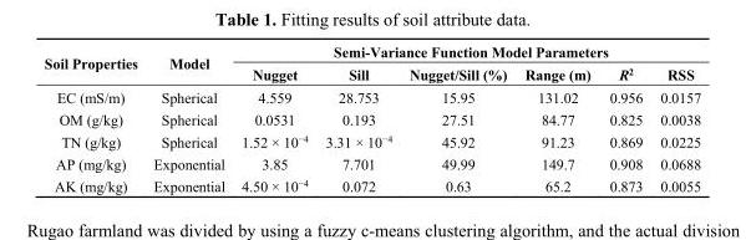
<table><thead><tr><td rowspan="2">Soil Properties</td><td rowspan="2">Model</td><td colspan="6">Semi-Variance Function Model Parameters</td></tr><tr><td>Nugget</td><td>Sill</td><td>Nugget/Sill (%)</td><td>Range (m)</td><td>R<sup>2</sup></td><td>RSS</td></tr></thead><tbody><tr><td>EC (mS/m)</td><td>Spherical</td><td>4.559</td><td>28.753</td><td>15.95</td><td>131.02</td><td>0.956</td><td>0.0157</td></tr><tr><td>OM (g/kg)</td><td>Spherical</td><td>0.0531</td><td>0.193</td><td>27.51</td><td>84.77</td><td>0.825</td><td>0.0038</td></tr><tr><td>TN (g/kg)</td><td>Spherical</td><td>1.52 × 10<sup>−4</sup></td><td>3.31 × 10<sup>−4</sup></td><td>45.92</td><td>91.23</td><td>0.869</td><td>0.0225</td></tr><tr><td>AP (mg/kg)</td><td>Exponential</td><td>3.85</td><td>7.701</td><td>49.99</td><td>149.7</td><td>0.908</td><td>0.0688</td></tr><tr><td>AK (mg/kg)</td><td>Exponential</td><td>4.50 × 10<sup>−4</sup></td><td>0.072</td><td>0.63</td><td>65.2</td><td>0.873</td><td>0.0055</td></tr></tbody></table>